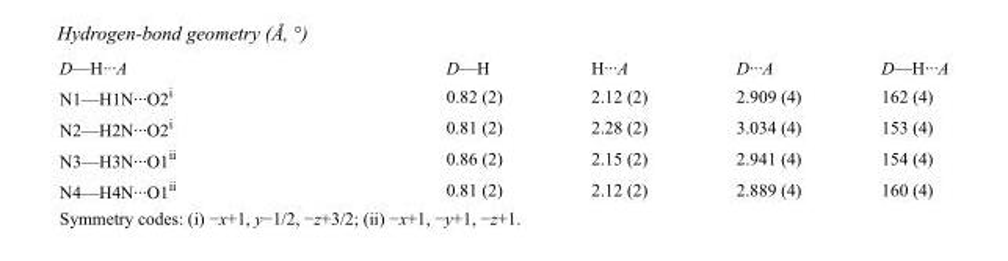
<table><tbody><tr><td>D—H···A</td><td>D—H</td><td>H···A</td><td>D···A</td><td>D—H···A</td></tr><tr><td>N1—H1N···O2<sup>i</sup></td><td>0.82 (2)</td><td>2.12 (2)</td><td>2.909 (4)</td><td>162 (4)</td></tr><tr><td>N2—H2N···O2<sup>i</sup></td><td>0.81 (2)</td><td>2.28 (2)</td><td>3.034 (4)</td><td>153 (4)</td></tr><tr><td>N3—H3N···O1<sup>ii</sup></td><td>0.86 (2)</td><td>2.15 (2)</td><td>2.941 (4)</td><td>154 (4)</td></tr><tr><td>N4—H4N···O1<sup>ii</sup></td><td>0.81 (2)</td><td>2.12 (2)</td><td>2.889 (4)</td><td>160 (4)</td></tr></tbody></table>